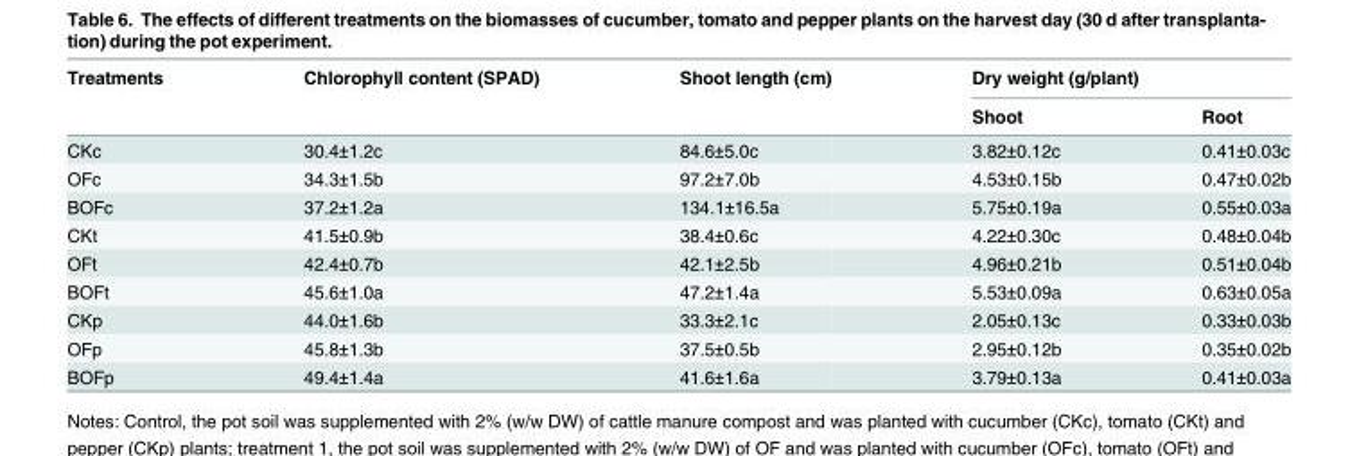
<table><thead><tr><td rowspan="2">Treatments</td><td rowspan="2">Chlorophyll content (SPAD)</td><td rowspan="2">Shoot length (cm)</td><td colspan="2">Dry weight (g/plant)</td></tr><tr><td>Shoot</td><td>Root</td></tr></thead><tbody><tr><td>CKc</td><td>30.4±1.2c</td><td>84.6±5.0c</td><td>3.82±0.12c</td><td>0.41±0.03c</td></tr><tr><td>OFc</td><td>34.3±1.5b</td><td>97.2±7.0b</td><td>4.53±0.15b</td><td>0.47±0.02b</td></tr><tr><td>BOFc</td><td>37.2±1.2a</td><td>134.1±16.5a</td><td>5.75±0.19a</td><td>0.55±0.03a</td></tr><tr><td>CKt</td><td>41.5±0.9b</td><td>38.4±0.6c</td><td>4.22±0.30c</td><td>0.48±0.04b</td></tr><tr><td>OFt</td><td>42.4±0.7b</td><td>42.1±2.5b</td><td>4.96±0.21b</td><td>0.51±0.04b</td></tr><tr><td>BOFt</td><td>45.6±1.0a</td><td>47.2±1.4a</td><td>5.53±0.09a</td><td>0.63±0.05a</td></tr><tr><td>CKp</td><td>44.0±1.6b</td><td>33.3±2.1c</td><td>2.05±0.13c</td><td>0.33±0.03b</td></tr><tr><td>OFp</td><td>45.8±1.3b</td><td>37.5±0.5b</td><td>2.95±0.12b</td><td>0.35±0.02b</td></tr><tr><td>BOFp</td><td>49.4±1.4a</td><td>41.6±1.6a</td><td>3.79±0.13a</td><td>0.41±0.03a</td></tr></tbody></table>